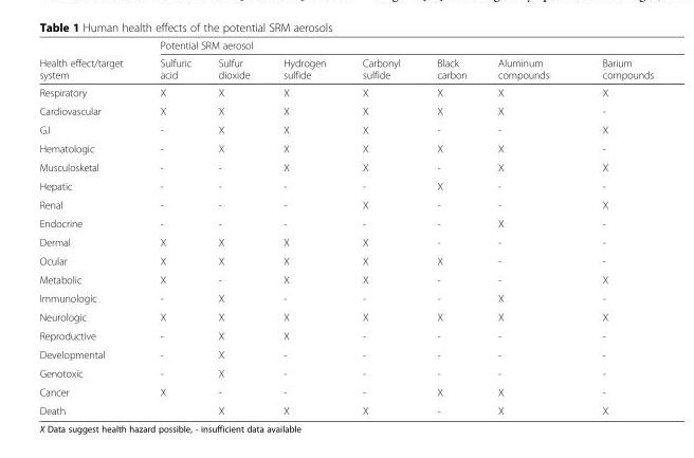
<table><thead><tr><td rowspan="2">Health effect/target system</td><td colspan="7">Potential SRM aerosol</td></tr><tr><td>Sulfuric acid</td><td>Sulfur dioxide</td><td>Hydrogen sulfide</td><td>Carbonyl sulfide</td><td>Black carbon</td><td>Aluminum compounds</td><td>Barium compounds</td></tr></thead><tbody><tr><td>Respiratory</td><td>X</td><td>X</td><td>X</td><td>X</td><td>X</td><td>X</td><td>X</td></tr><tr><td>Cardiovascular</td><td>X</td><td>X</td><td>X</td><td>X</td><td>X</td><td>X</td><td>-</td></tr><tr><td>G.I</td><td>-</td><td>X</td><td>X</td><td>X</td><td>-</td><td>-</td><td>X</td></tr><tr><td>Hematologic</td><td>-</td><td>X</td><td>X</td><td>X</td><td>X</td><td>X</td><td>-</td></tr><tr><td>Musculosketal</td><td>-</td><td>-</td><td>X</td><td>X</td><td>-</td><td>X</td><td>X</td></tr><tr><td>Hepatic</td><td>-</td><td>-</td><td>-</td><td>-</td><td>X</td><td>-</td><td>-</td></tr><tr><td>Renal</td><td>-</td><td>-</td><td>-</td><td>X</td><td>-</td><td>-</td><td>X</td></tr><tr><td>Endocrine</td><td>-</td><td>-</td><td>-</td><td>-</td><td>-</td><td>X</td><td>-</td></tr><tr><td>Dermal</td><td>X</td><td>X</td><td>X</td><td>X</td><td>-</td><td>-</td><td>-</td></tr><tr><td>Ocular</td><td>X</td><td>X</td><td>X</td><td>X</td><td>X</td><td>-</td><td>-</td></tr><tr><td>Metabolic</td><td>X</td><td>-</td><td>X</td><td>X</td><td>-</td><td>-</td><td>X</td></tr><tr><td>Immunologic</td><td>-</td><td>X</td><td>-</td><td>-</td><td>-</td><td>X</td><td>-</td></tr><tr><td>Neurologic</td><td>X</td><td>X</td><td>X</td><td>X</td><td>X</td><td>X</td><td>X</td></tr><tr><td>Reproductive</td><td>-</td><td>X</td><td>X</td><td>-</td><td>-</td><td>-</td><td>-</td></tr><tr><td>Developmental</td><td>-</td><td>X</td><td>-</td><td>-</td><td>-</td><td>-</td><td>-</td></tr><tr><td>Genotoxic</td><td>-</td><td>X</td><td>-</td><td>-</td><td>-</td><td>-</td><td>-</td></tr><tr><td>Cancer</td><td>X</td><td>-</td><td>-</td><td>-</td><td>X</td><td>X</td><td>-</td></tr><tr><td>Death</td><td></td><td>X</td><td>X</td><td>X</td><td>-</td><td>X</td><td>X</td></tr></tbody></table>